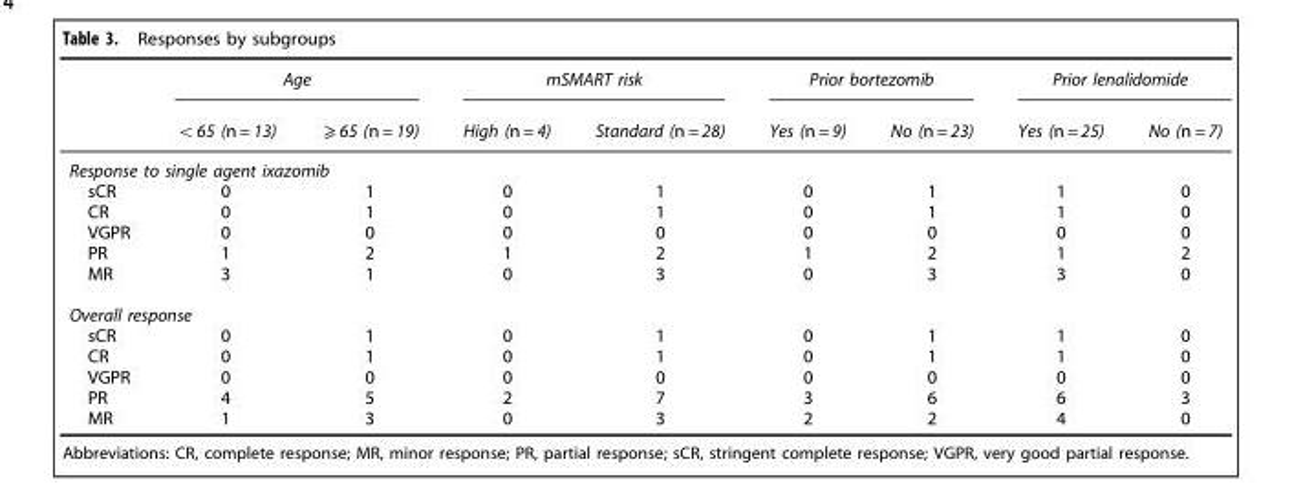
<table><thead><tr><td rowspan="2"></td><td colspan="2">Age</td><td colspan="2">mSMART risk</td><td colspan="2">Prior bortezomib</td><td colspan="2">Prior lenalidomide</td></tr><tr><td>&lt;65 (n = 13)</td><td>⩾ 65 (n = 19)</td><td>High (n = 4)</td><td>Standard (n = 28)</td><td>Yes (n = 9)</td><td>No (n = 23)</td><td>Yes (n = 25)</td><td>No (n = 7)</td></tr></thead><tbody><tr><td colspan="9">Response to single agent ixazomib</td></tr><tr><td>sCR</td><td>0</td><td>1</td><td>0</td><td>1</td><td>0</td><td>1</td><td>1</td><td>0</td></tr><tr><td>CR</td><td>0</td><td>1</td><td>0</td><td>1</td><td>0</td><td>1</td><td>1</td><td>0</td></tr><tr><td>VGPR</td><td>0</td><td>0</td><td>0</td><td>0</td><td>0</td><td>0</td><td>0</td><td>0</td></tr><tr><td>PR</td><td>1</td><td>2</td><td>1</td><td>2</td><td>1</td><td>2</td><td>1</td><td>2</td></tr><tr><td>MR</td><td>3</td><td>1</td><td>0</td><td>3</td><td>0</td><td>3</td><td>3</td><td>0</td></tr><tr><td colspan="9">Overall response</td></tr><tr><td>sCR</td><td>0</td><td>1</td><td>0</td><td>1</td><td>0</td><td>1</td><td>1</td><td>0</td></tr><tr><td>CR</td><td>0</td><td>1</td><td>0</td><td>1</td><td>0</td><td>1</td><td>1</td><td>0</td></tr><tr><td>VGPR</td><td>0</td><td>0</td><td>0</td><td>0</td><td>0</td><td>0</td><td>0</td><td>0</td></tr><tr><td>PR</td><td>4</td><td>5</td><td>2</td><td>7</td><td>3</td><td>6</td><td>6</td><td>3</td></tr><tr><td>MR</td><td>1</td><td>3</td><td>0</td><td>3</td><td>2</td><td>2</td><td>4</td><td>0</td></tr></tbody></table>